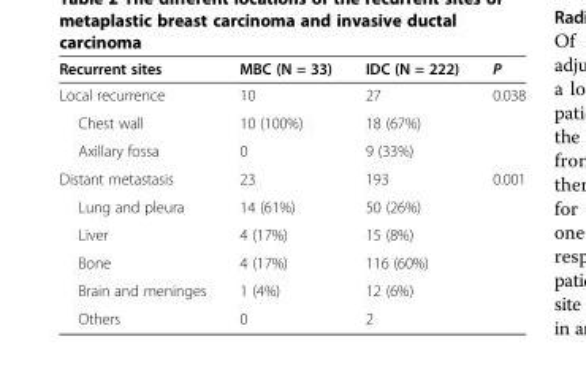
<table><thead><tr><td>Recurrent sites</td><td>MBC (N = 33)</td><td>IDC (N = 222)</td><td>P</td></tr></thead><tbody><tr><td>Local recurrence</td><td>10</td><td>27</td><td>0.038</td></tr><tr><td>Chest wall</td><td>10 (100%)</td><td>18 (67%)</td><td></td></tr><tr><td>Axillary fossa</td><td>0</td><td>9 (33%)</td><td></td></tr><tr><td>Distant metastasis</td><td>23</td><td>193</td><td>0.001</td></tr><tr><td>Lung and pleura</td><td>14 (61%)</td><td>50 (26%)</td><td></td></tr><tr><td>Liver</td><td>4 (17%)</td><td>15 (8%)</td><td></td></tr><tr><td>Bone</td><td>4 (17%)</td><td>116 (60%)</td><td></td></tr><tr><td>Brain and meninges</td><td>1 (4%)</td><td>12 (6%)</td><td></td></tr><tr><td>Others</td><td>0</td><td>2</td><td></td></tr></tbody></table>